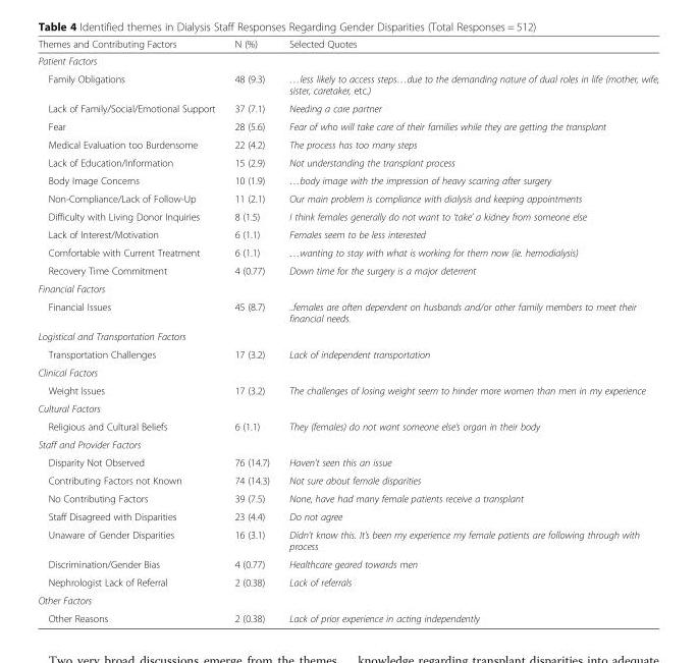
<table><thead><tr><td>Themes and Contributing Factors</td><td>N (%)</td><td>Selected Quotes</td></tr></thead><tbody><tr><td colspan="3">Patient Factors</td></tr><tr><td>Family Obligations</td><td>48 (9.3)</td><td>…less likely to access steps…due to the demanding nature of dual roles in life (mother, wife, sister, caretaker, etc.)</td></tr><tr><td>Lack of Family/Social/Emotional Support</td><td>37 (7.1)</td><td>Needing a care partner</td></tr><tr><td>Fear</td><td>28 (5.6)</td><td>Fear of who will take care of their families while they are getting the transplant</td></tr><tr><td>Medical Evaluation too Burdensome</td><td>22 (4.2)</td><td>The process has too many steps</td></tr><tr><td>Lack of Education/Information</td><td>15 (2.9)</td><td>Not understanding the transplant process</td></tr><tr><td>Body Image Concerns</td><td>10 (1.9)</td><td>…body image with the impression of heavy scarring after surgery</td></tr><tr><td>Non-Compliance/Lack of Follow-Up</td><td>11 (2.1)</td><td>Our main problem is compliance with dialysis and keeping appointments</td></tr><tr><td>Difficulty with Living Donor Inquiries</td><td>8 (1.5)</td><td>I think females generally do not want to ‘take’ a kidney from someone else</td></tr><tr><td>Lack of Interest/Motivation</td><td>6 (1.1)</td><td>Females seem to be less interested</td></tr><tr><td>Comfortable with Current Treatment</td><td>6 (1.1)</td><td>…wanting to stay with what is working for them now (ie. hemodialysis)</td></tr><tr><td>Recovery Time Commitment</td><td>4 (0.77)</td><td>Down time for the surgery is a major deterrent</td></tr><tr><td colspan="3">Financial Factors</td></tr><tr><td>Financial Issues</td><td>45 (8.7)</td><td>..females are often dependent on husbands and/or other family members to meet their financial needs.</td></tr><tr><td colspan="3">Logistical and Transportation Factors</td></tr><tr><td>Transportation Challenges</td><td>17 (3.2)</td><td>Lack of independent transportation</td></tr><tr><td colspan="3">Clinical Factors</td></tr><tr><td>Weight Issues</td><td>17 (3.2)</td><td>The challenges of losing weight seem to hinder more women than men in my experience</td></tr><tr><td colspan="3">Cultural Factors</td></tr><tr><td>Religious and Cultural Beliefs</td><td>6 (1.1)</td><td>They (females) do not want someone else’s organ in their body</td></tr><tr><td colspan="3">Staff and Provider Factors</td></tr><tr><td>Disparity Not Observed</td><td>76 (14.7)</td><td>Haven’t seen this an issue</td></tr><tr><td>Contributing Factors not Known</td><td>74 (14.3)</td><td>Not sure about female disparities</td></tr><tr><td>No Contributing Factors</td><td>39 (7.5)</td><td>None, have had many female patients receive a transplant</td></tr><tr><td>Staff Disagreed with Disparities</td><td>23 (4.4)</td><td>Do not agree</td></tr><tr><td>Unaware of Gender Disparities</td><td>16 (3.1)</td><td>Didn’t know this. It’s been my experience my female patients are following through with process</td></tr><tr><td>Discrimination/Gender Bias</td><td>4 (0.77)</td><td>Healthcare geared towards men</td></tr><tr><td>Nephrologist Lack of Referral</td><td>2 (0.38)</td><td>Lack of referrals</td></tr><tr><td colspan="3">Other Factors</td></tr><tr><td>Other Reasons</td><td>2 (0.38)</td><td>Lack of prior experience in acting independently</td></tr></tbody></table>